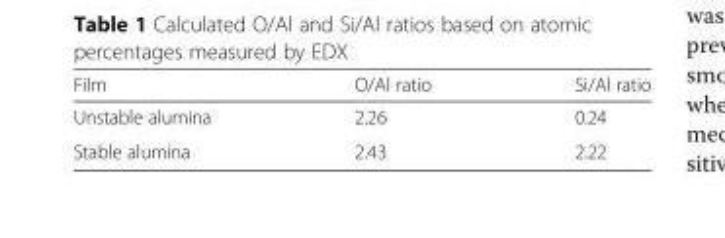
<table><thead><tr><td>Film</td><td>O/Al ratio</td><td>Si/Al ratio</td></tr></thead><tbody><tr><td>Unstable alumina</td><td>2.26</td><td>0.24</td></tr><tr><td>Stable alumina</td><td>2.43</td><td>2.22</td></tr></tbody></table>